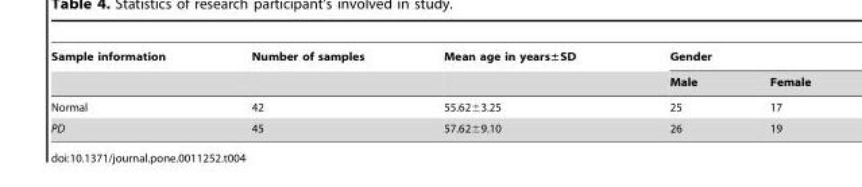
<table><thead><tr><td rowspan="2">Sample information</td><td rowspan="2">Number of samples</td><td rowspan="2">Mean age in years±SD</td><td colspan="2">Gender</td></tr><tr><td>Male</td><td>Female</td></tr></thead><tbody><tr><td>Normal</td><td>42</td><td>55.62±3.25</td><td>25</td><td>17</td></tr><tr><td>PD</td><td>45</td><td>57.62±9.10</td><td>26</td><td>19</td></tr></tbody></table>